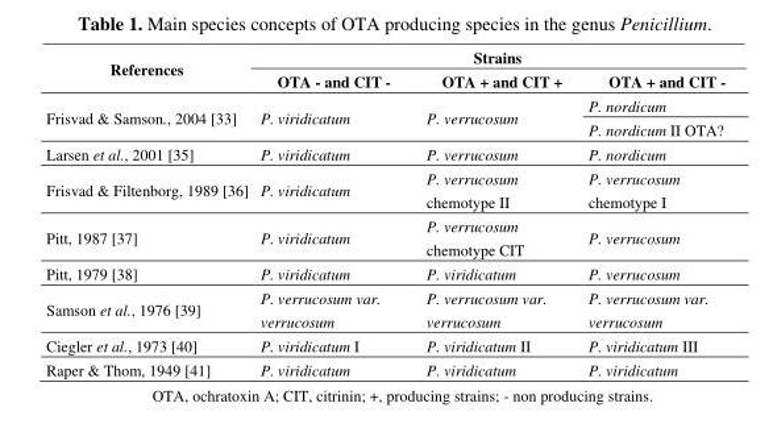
<table><thead><tr><td rowspan="2">References</td><td colspan="3">Strains</td></tr><tr><td>OTA - and CIT -</td><td>OTA + and CIT +</td><td>OTA + and CIT -</td></tr></thead><tbody><tr><td rowspan="2">Frisvad &amp; Samson., 2004 [33]</td><td rowspan="2">P. viridicatum</td><td rowspan="2">P. verrucosum</td><td>P. nordicum</td></tr><tr><td>P. nordicum II OTA?</td></tr><tr><td>Larsen et al., 2001 [35]</td><td>P. viridicatum</td><td>P. verrucosum</td><td>P. nordicum</td></tr><tr><td>Frisvad &amp; Filtenborg, 1989 [36]</td><td>P. viridicatum</td><td>P. verrucosum chemotype II</td><td>P. verrucosum chemotype I</td></tr><tr><td>Pitt, 1987 [37]</td><td>P. viridicatum</td><td>P. verrucosum chemotype CIT</td><td>P. verrucosum</td></tr><tr><td>Pitt, 1979 [38]</td><td>P. viridicatum</td><td>P. viridicatum</td><td>P. verrucosum</td></tr><tr><td>Samson et al., 1976 [39]</td><td>P. verrucosum var. verrucosum</td><td>P. verrucosum var. verrucosum</td><td>P. verrucosum var. verrucosum</td></tr><tr><td>Ciegler et al., 1973 [40]</td><td>P. viridicatum I</td><td>P. viridicatum II</td><td>P. viridicatum III</td></tr><tr><td>Raper &amp; Thom, 1949 [41]</td><td>P. viridicatum</td><td>P. viridicatum</td><td>P. viridicatum</td></tr></tbody></table>